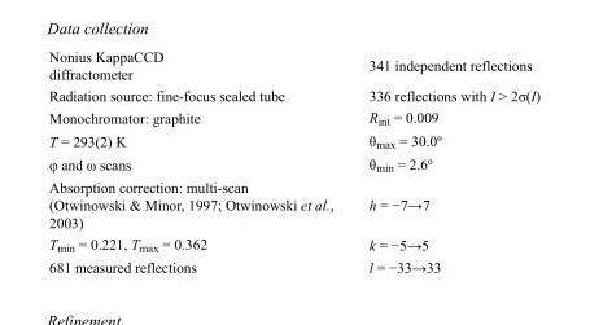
<table><tbody><tr><td>Nonius KappaCCD diffractometer</td><td>341 independent reflections</td></tr><tr><td>Radiation source: fine-focus sealed tube</td><td>336 reflections with I &gt; 2σ(I)</td></tr><tr><td>Monochromator: graphite</td><td>R<sub>int</sub> = 0.009</td></tr><tr><td>T = 293(2) K</td><td>θ<sub>max</sub> = 30.0º</td></tr><tr><td>φ and ω scans</td><td>θ<sub>min</sub> = 2.6º</td></tr><tr><td>Absorption correction: multi-scan (Otwinowski &amp; Minor, 1997; Otwinowski et al., 2003)</td><td>h = −7→7</td></tr><tr><td>T<sub>min</sub> = 0.221, T<sub>max</sub> = 0.362</td><td>k = −5→5</td></tr><tr><td>681 measured reflections</td><td>l = −33→33</td></tr></tbody></table>